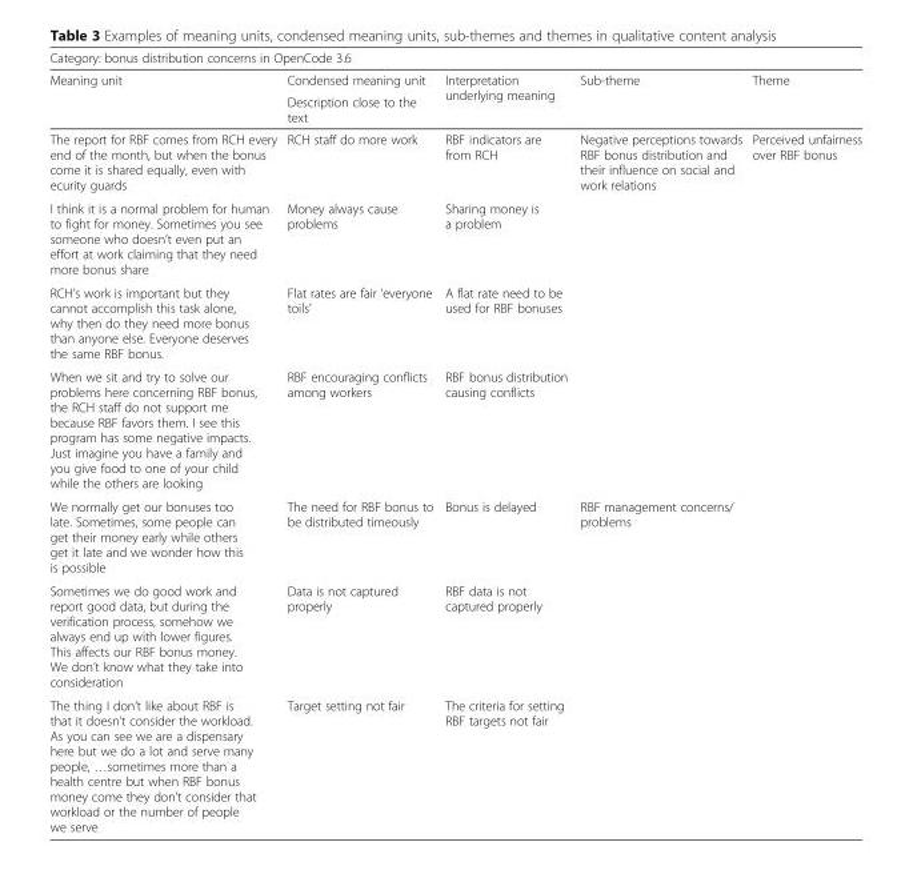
<table><thead><tr><td colspan="5">Category: bonus distribution concerns in OpenCode 3.6</td></tr><tr><td rowspan="2">Meaning unit</td><td rowspan="2">Condensed meaning unit Description close to the text</td><td rowspan="2">Interpretation underlying meaning</td><td rowspan="2">Sub-theme</td><td rowspan="2">Theme</td></tr><tr></tr></thead><tbody><tr><td>The report for RBF comes from RCH every end of the month, but when the bonus come it is shared equally, even with ecurity guards</td><td>RCH staff do more work</td><td>RBF indicators are from RCH</td><td rowspan="4">Negative perceptions towards RBF bonus distribution and their influence on social and work relations</td><td rowspan="7">Perceived unfairness over RBF bonus</td></tr><tr><td>I think it is a normal problem for human to fight for money. Sometimes you see someone who doesn’t even put an effort at work claiming that they need more bonus share</td><td>Money always cause problems</td><td>Sharing money is a problem</td></tr><tr><td>RCH’s work is important but they cannot accomplish this task alone, why then do they need more bonus than anyone else. Everyone deserves the same RBF bonus.</td><td>Flat rates are fair ‘everyone toils’</td><td>A flat rate need to be used for RBF bonuses</td></tr><tr><td>When we sit and try to solve our problems here concerning RBF bonus, the RCH staff do not support me because RBF favors them. I see this program has some negative impacts. Just imagine you have a family and you give food to one of your child while the others are looking</td><td>RBF encouraging conflicts among workers</td><td>RBF bonus distribution causing conflicts</td></tr><tr><td>We normally get our bonuses too late. Sometimes, some people can get their money early while others get it late and we wonder how this is possible</td><td>The need for RBF bonus to be distributed timeously</td><td>Bonus is delayed</td><td rowspan="3">RBF management concerns/ problems</td></tr><tr><td>Sometimes we do good work and report good data, but during the verification process, somehow we always end up with lower figures. This affects our RBF bonus money. We don’t know what they take into consideration</td><td>Data is not captured properly</td><td>RBF data is not captured properly</td></tr><tr><td>The thing I don’t like about RBF is that it doesn’t consider the workload. As you can see we are a dispensary here but we do a lot and serve many people, …sometimes more than a health centre but when RBF bonus money come they don’t consider that workload or the number of people we serve</td><td>Target setting not fair</td><td>The criteria for setting RBF targets not fair</td></tr></tbody></table>